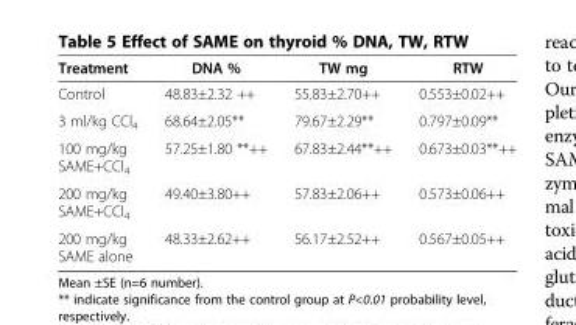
<table><thead><tr><td>Treatment</td><td>DNA %</td><td>TW mg</td><td>RTW</td></tr></thead><tbody><tr><td>Control</td><td>48.83±2.32 ++</td><td>55.83±2.70++</td><td>0.553±0.02++</td></tr><tr><td>3 ml/kg CCl<sub>4</sub></td><td>68.64±2.05**</td><td>79.67±2.29**</td><td>0.797±0.09**</td></tr><tr><td>100 mg/kg SAME+CCl<sub>4</sub></td><td>57.25±1.80 **++</td><td>67.83±2.44**++</td><td>0.673±0.03**++</td></tr><tr><td>200 mg/kg SAME+CCl<sub>4</sub></td><td>49.40±3.80++</td><td>57.83±2.06++</td><td>0.573±0.06++</td></tr><tr><td>200 mg/kg SAME alone</td><td>48.33±2.62++</td><td>56.17±2.52++</td><td>0.567±0.05++</td></tr></tbody></table>